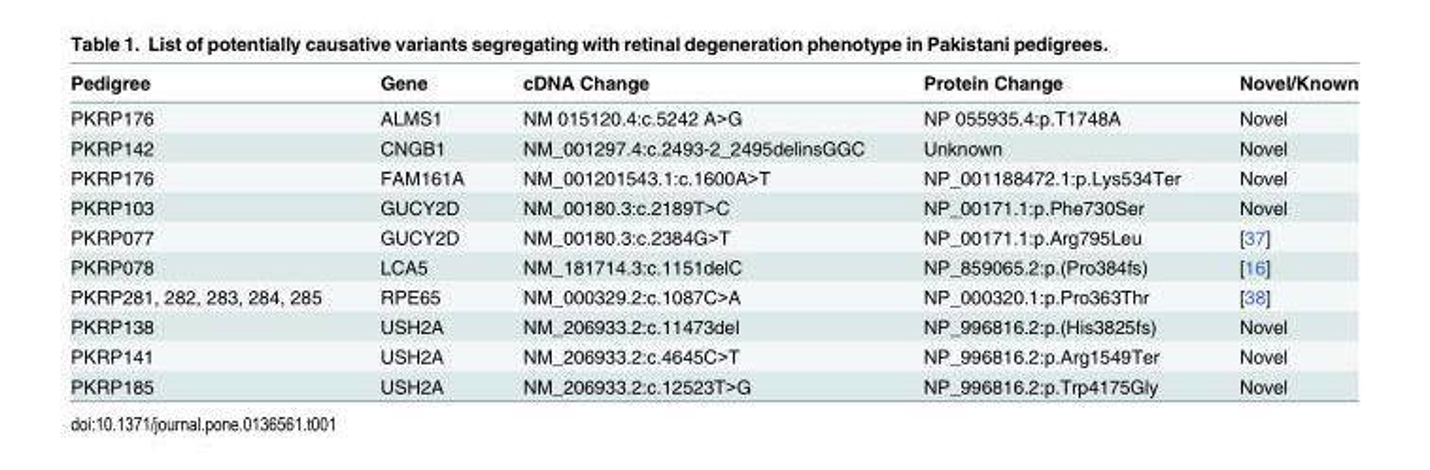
<table><thead><tr><td>Pedigree</td><td>Gene</td><td>cDNA Change</td><td>Protein Change</td><td>Novel/Known</td></tr></thead><tbody><tr><td>PKRP176</td><td>ALMS1</td><td>NM 015120.4:c.5242 A&gt;G</td><td>NP 055935.4:p.T1748A</td><td>Novel</td></tr><tr><td>PKRP142</td><td>CNGB1</td><td>NM_001297.4:c.2493-2_2495delinsGGC</td><td>Unknown</td><td>Novel</td></tr><tr><td>PKRP176</td><td>FAM161A</td><td>NM_001201543.1:c.1600A&gt;T</td><td>NP_001188472.1:p.Lys534Ter</td><td>Novel</td></tr><tr><td>PKRP103</td><td>GUCY2D</td><td>NM_00180.3:c.2189T&gt;C</td><td>NP_00171.1:p.Phe730Ser</td><td>Novel</td></tr><tr><td>PKRP077</td><td>GUCY2D</td><td>NM_00180.3:c.2384G&gt;T</td><td>NP_00171.1:p.Arg795Leu</td><td>[37]</td></tr><tr><td>PKRP078</td><td>LCA5</td><td>NM_181714.3:c.1151delC</td><td>NP_859065.2:p.(Pro384fs)</td><td>[16]</td></tr><tr><td>PKRP281, 282, 283, 284, 285</td><td>RPE65</td><td>NM_000329.2:c.1087C&gt;A</td><td>NP_000320.1:p.Pro363Thr</td><td>[38]</td></tr><tr><td>PKRP138</td><td>USH2A</td><td>NM_206933.2:c.11473del</td><td>NP_996816.2:p.(His3825fs)</td><td>Novel</td></tr><tr><td>PKRP141</td><td>USH2A</td><td>NM_206933.2:c.4645C&gt;T</td><td>NP_996816.2:p.Arg1549Ter</td><td>Novel</td></tr><tr><td>PKRP185</td><td>USH2A</td><td>NM_206933.2:c.12523T&gt;G</td><td>NP_996816.2:p.Trp4175Gly</td><td>Novel</td></tr></tbody></table>